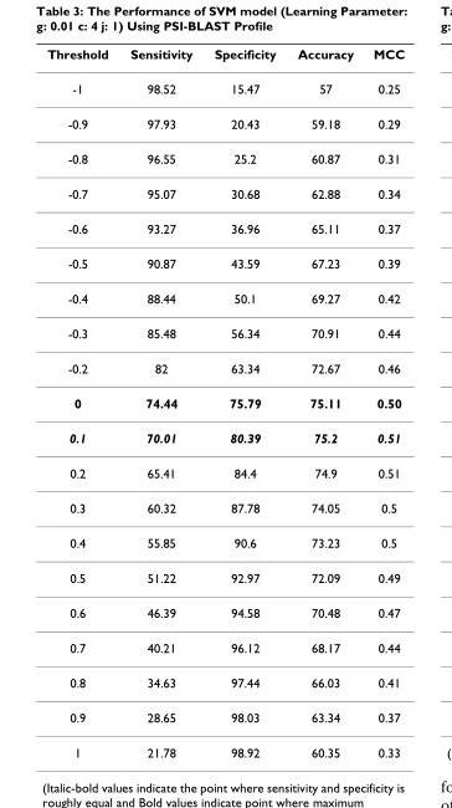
<table><thead><tr><td>Threshold</td><td>Sensitivity</td><td>Specificity</td><td>Accuracy</td><td>MCC</td></tr></thead><tbody><tr><td>-1</td><td>98.52</td><td>15.47</td><td>57</td><td>0.25</td></tr><tr><td>-0.9</td><td>97.93</td><td>20.43</td><td>59.18</td><td>0.29</td></tr><tr><td>-0.8</td><td>96.55</td><td>25.2</td><td>60.87</td><td>0.31</td></tr><tr><td>-0.7</td><td>95.07</td><td>30.68</td><td>62.88</td><td>0.34</td></tr><tr><td>-0.6</td><td>93.27</td><td>36.96</td><td>65.11</td><td>0.37</td></tr><tr><td>-0.5</td><td>90.87</td><td>43.59</td><td>67.23</td><td>0.39</td></tr><tr><td>-0.4</td><td>88.44</td><td>50.1</td><td>69.27</td><td>0.42</td></tr><tr><td>-0.3</td><td>85.48</td><td>56.34</td><td>70.91</td><td>0.44</td></tr><tr><td>-0.2</td><td>82</td><td>63.34</td><td>72.67</td><td>0.46</td></tr><tr><td>0</td><td>74.44</td><td>75.79</td><td>75.11</td><td>0.50</td></tr><tr><td>0.1</td><td>70.01</td><td>80.39</td><td>75.2</td><td>0.51</td></tr><tr><td>0.2</td><td>65.41</td><td>84.4</td><td>74.9</td><td>0.51</td></tr><tr><td>0.3</td><td>60.32</td><td>87.78</td><td>74.05</td><td>0.5</td></tr><tr><td>0.4</td><td>55.85</td><td>90.6</td><td>73.23</td><td>0.5</td></tr><tr><td>0.5</td><td>51.22</td><td>92.97</td><td>72.09</td><td>0.49</td></tr><tr><td>0.6</td><td>46.39</td><td>94.58</td><td>70.48</td><td>0.47</td></tr><tr><td>0.7</td><td>40.21</td><td>96.12</td><td>68.17</td><td>0.44</td></tr><tr><td>0.8</td><td>34.63</td><td>97.44</td><td>66.03</td><td>0.41</td></tr><tr><td>0.9</td><td>28.65</td><td>98.03</td><td>63.34</td><td>0.37</td></tr><tr><td>1</td><td>21.78</td><td>98.92</td><td>60.35</td><td>0.33</td></tr></tbody></table>